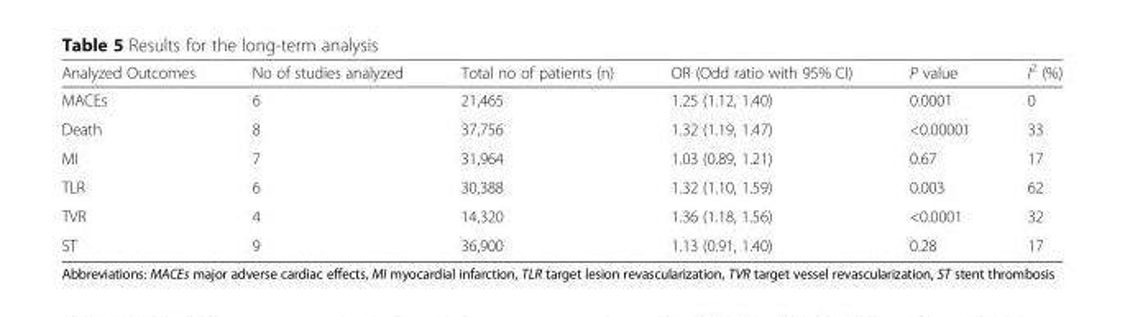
<table><thead><tr><td>Analyzed Outcomes</td><td>No of studies analyzed</td><td>Total no of patients (n)</td><td>OR (Odd ratio with 95% CI)</td><td>P value</td><td>I<sup>2</sup> (%)</td></tr></thead><tbody><tr><td>MACEs</td><td>6</td><td>21,465</td><td>1.25 (1.12, 1.40)</td><td>0.0001</td><td>0</td></tr><tr><td>Death</td><td>8</td><td>37,756</td><td>1.32 (1.19, 1.47)</td><td>&lt;0.00001</td><td>33</td></tr><tr><td>MI</td><td>7</td><td>31,964</td><td>1.03 (0.89, 1.21)</td><td>0.67</td><td>17</td></tr><tr><td>TLR</td><td>6</td><td>30,388</td><td>1.32 (1.10, 1.59)</td><td>0.003</td><td>62</td></tr><tr><td>TVR</td><td>4</td><td>14,320</td><td>1.36 (1.18, 1.56)</td><td>&lt;0.0001</td><td>32</td></tr><tr><td>ST</td><td>9</td><td>36,900</td><td>1.13 (0.91, 1.40)</td><td>0.28</td><td>17</td></tr></tbody></table>